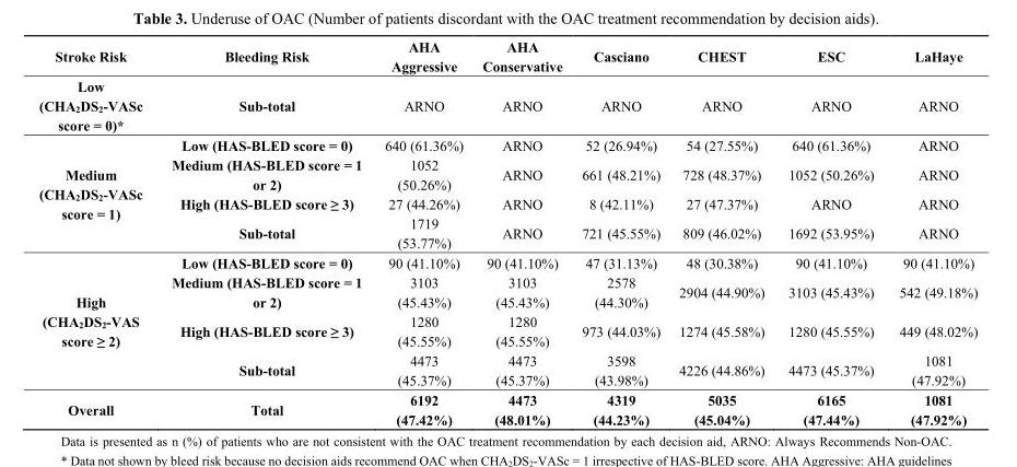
<table><thead><tr><td>Stroke Risk</td><td>Bleeding Risk</td><td>AHA Aggressive</td><td>AHA Conservative</td><td>Casciano</td><td>CHEST</td><td>ESC</td><td>LaHaye</td></tr></thead><tbody><tr><td>Low (CHA<sub>2</sub>DS<sub>2</sub>-VASc score = 0)*</td><td>Sub-total</td><td>ARNO</td><td>ARNO</td><td>ARNO</td><td>ARNO</td><td>ARNO</td><td>ARNO</td></tr><tr><td rowspan="4">Medium (CHA<sub>2</sub>DS<sub>2</sub>-VASc score = 1)</td><td>Low (HAS-BLED score = 0)</td><td>640 (61.36%)</td><td>ARNO</td><td>52 (26.94%)</td><td>54 (27.55%)</td><td>640 (61.36%)</td><td>ARNO</td></tr><tr><td>Medium (HAS-BLED score = 1 or 2)</td><td>1052 (50.26%)</td><td>ARNO</td><td>661 (48.21%)</td><td>728 (48.37%)</td><td>1052 (50.26%)</td><td>ARNO</td></tr><tr><td>High (HAS-BLED score ≥ 3)</td><td>27 (44.26%)</td><td>ARNO</td><td>8 (42.11%)</td><td>27 (47.37%)</td><td>ARNO</td><td>ARNO</td></tr><tr><td>Sub-total</td><td>1719 (53.77%)</td><td>ARNO</td><td>721 (45.55%)</td><td>809 (46.02%)</td><td>1692 (53.95%)</td><td>ARNO</td></tr><tr><td rowspan="4">High (CHA<sub>2</sub>DS<sub>2</sub>-VAS score ≥ 2)</td><td>Low (HAS-BLED score = 0)</td><td>90 (41.10%)</td><td>90 (41.10%)</td><td>47 (31.13%)</td><td>48 (30.38%)</td><td>90 (41.10%)</td><td>90 (41.10%)</td></tr><tr><td>Medium (HAS-BLED score = 1 or 2)</td><td>3103 (45.43%)</td><td>3103 (45.43%)</td><td>2578 (44.30%)</td><td>2904 (44.90%)</td><td>3103 (45.43%)</td><td>542 (49.18%)</td></tr><tr><td>High (HAS-BLED score ≥ 3)</td><td>1280 (45.55%)</td><td>1280 (45.55%)</td><td>973 (44.03%)</td><td>1274 (45.58%)</td><td>1280 (45.55%)</td><td>449 (48.02%)</td></tr><tr><td>Sub-total</td><td>4473 (45.37%)</td><td>4473 (45.37%)</td><td>3598 (43.98%)</td><td>4226 (44.86%)</td><td>4473 (45.37%)</td><td>1081 (47.92%)</td></tr><tr><td>Overall</td><td>Total</td><td>6192 (47.42%)</td><td>4473 (48.01%)</td><td>4319 (44.23%)</td><td>5035 (45.04%)</td><td>6165 (47.44%)</td><td>1081 (47.92%)</td></tr></tbody></table>